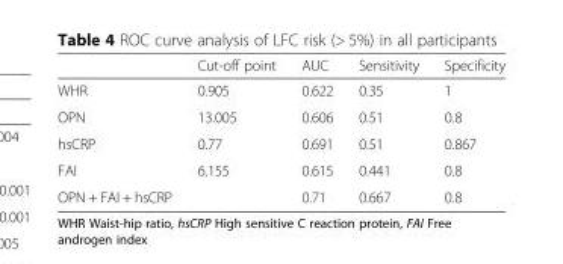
<table><thead><tr><td></td><td>Cut-off point</td><td>AUC</td><td>Sensitivity</td><td>Specificity</td></tr></thead><tbody><tr><td>WHR</td><td>0.905</td><td>0.622</td><td>0.35</td><td>1</td></tr><tr><td>OPN</td><td>13.005</td><td>0.606</td><td>0.51</td><td>0.8</td></tr><tr><td>hsCRP</td><td>0.77</td><td>0.691</td><td>0.51</td><td>0.867</td></tr><tr><td>FAI</td><td>6.155</td><td>0.615</td><td>0.441</td><td>0.8</td></tr><tr><td>OPN + FAI + hsCRP</td><td></td><td>0.71</td><td>0.667</td><td>0.8</td></tr></tbody></table>